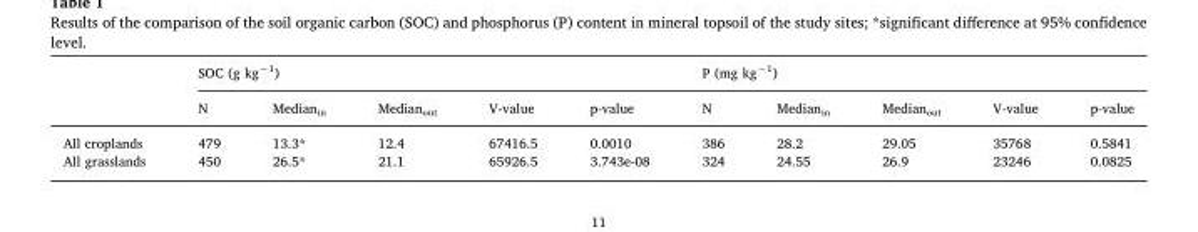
<table><thead><tr><td rowspan="2"></td><td colspan="5">SOC (g kg<sup>−1</sup>)</td><td colspan="5">P (mg kg<sup>−1</sup>)</td></tr><tr><td>N</td><td>Median<sub>in</sub></td><td>Median<sub>out</sub></td><td>V-value</td><td>p-value</td><td>N</td><td>Median<sub>in</sub></td><td>Median<sub>out</sub></td><td>V-value</td><td>p-value</td></tr></thead><tbody><tr><td>All croplands</td><td>479</td><td>13.3*</td><td>12.4</td><td>67416.5</td><td>0.0010</td><td>386</td><td>28.2</td><td>29.05</td><td>35768</td><td>0.5841</td></tr><tr><td>All grasslands</td><td>450</td><td>26.5*</td><td>21.1</td><td>65926.5</td><td>3.743e-08</td><td>324</td><td>24.55</td><td>26.9</td><td>23246</td><td>0.0825</td></tr></tbody></table>